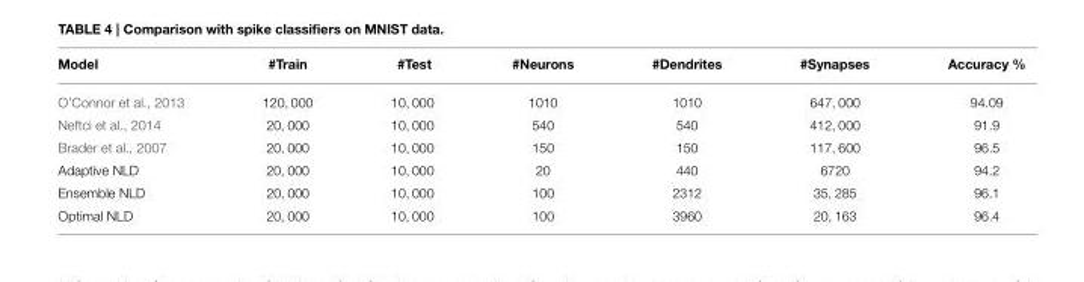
<table><thead><tr><td>Model</td><td>#Train</td><td>#Test</td><td>#Neurons</td><td>#Dendrites</td><td>#Synapses</td><td>Accuracy %</td></tr></thead><tbody><tr><td>O’Connor et al., 2013</td><td>120, 000</td><td>10, 000</td><td>1010</td><td>1010</td><td>647, 000</td><td>94.09</td></tr><tr><td>Neftci et al., 2014</td><td>20, 000</td><td>10, 000</td><td>540</td><td>540</td><td>412, 000</td><td>91.9</td></tr><tr><td>Brader et al., 2007</td><td>20, 000</td><td>10, 000</td><td>150</td><td>150</td><td>117, 600</td><td>96.5</td></tr><tr><td>Adaptive NLD</td><td>20, 000</td><td>10, 000</td><td>20</td><td>440</td><td>6720</td><td>94.2</td></tr><tr><td>Ensemble NLD</td><td>20, 000</td><td>10, 000</td><td>100</td><td>2312</td><td>35, 285</td><td>96.1</td></tr><tr><td>Optimal NLD</td><td>20, 000</td><td>10, 000</td><td>100</td><td>3960</td><td>20, 163</td><td>96.4</td></tr></tbody></table>